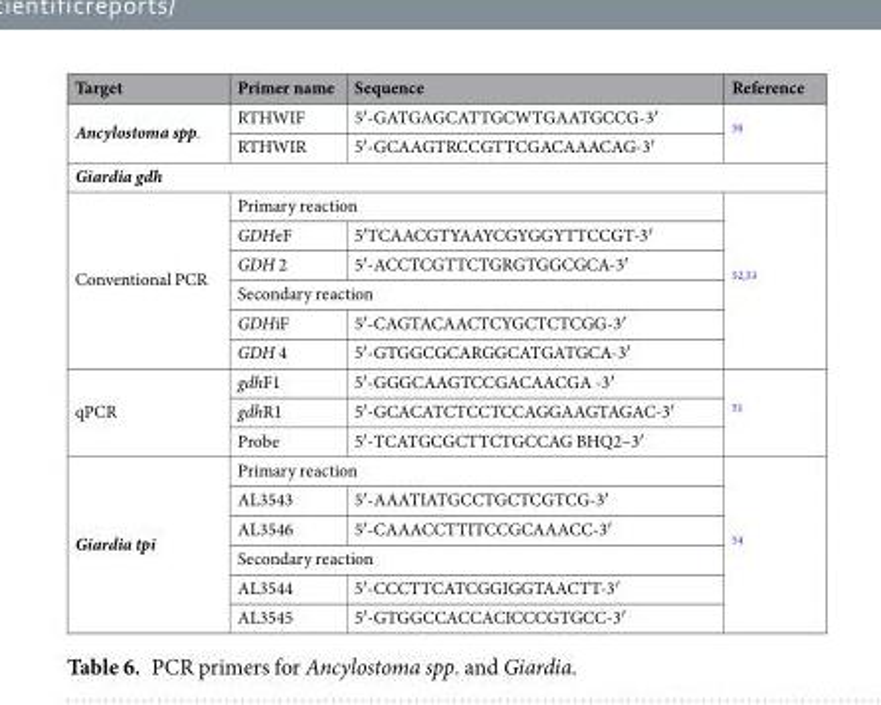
<table><thead><tr><td>Target</td><td>Primer name</td><td>Sequence</td><td>Reference</td></tr></thead><tbody><tr><td rowspan="2">Ancylostoma spp.</td><td>RTHWIF</td><td>5′-GATGAGCATTGCWTGAATGCCG-3′</td><td rowspan="2"><sup>50</sup></td></tr><tr><td>RTHWIR</td><td>5′-GCAAGTRCCGTTCGACAAACAG-3′</td></tr><tr><td colspan="4">Giardia gdh</td></tr><tr><td rowspan="6">Conventional PCR</td><td colspan="2">Primary reaction</td><td rowspan="6"><sup>52,53</sup></td></tr><tr><td>GDHeF</td><td>5′TCAACGTYAAYCGYGGYTTCCGT-3′</td></tr><tr><td>GDH 2</td><td>5′-ACCTCGTTCTGRGTGGCGCA-3′</td></tr><tr><td colspan="2">Secondary reaction</td></tr><tr><td>GDHiF</td><td>5′-CAGTACAACTCYGCTCTCGG-3′</td></tr><tr><td>GDH 4</td><td>5′-GTGGCGCARGGCATGATGCA-3′</td></tr><tr><td rowspan="3">qPCR</td><td>gdhF1</td><td>5′-GGGCAAGTCCGACAACGA -3′</td><td rowspan="3"><sup>51</sup></td></tr><tr><td>gdhR1</td><td>5′-GCACATCTCCTCCAGGAAGTAGAC-3′</td></tr><tr><td>Probe</td><td>5′-TCATGCGCTTCTGCCAG BHQ2–3′</td></tr><tr><td rowspan="6">Giardia tpi</td><td colspan="2">Primary reaction</td><td rowspan="6"><sup>54</sup></td></tr><tr><td>AL3543</td><td>5′-AAATIATGCCTGCTCGTCG-3′</td></tr><tr><td>AL3546</td><td>5′-CAAACCTTITCCGCAAACC-3′</td></tr><tr><td colspan="2">Secondary reaction</td></tr><tr><td>AL3544</td><td>5′-CCCTTCATCGGIGGTAACTT-3′</td></tr><tr><td>AL3545</td><td>5′-GTGGCCACCACICCCGTGCC-3′</td></tr></tbody></table>